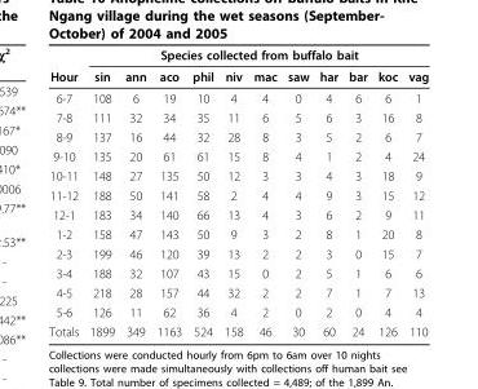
<table><thead><tr><td rowspan="2">Hour</td><td colspan="11">Species collected from buffalo bait</td></tr><tr><td>sin</td><td>ann</td><td>aco</td><td>phil</td><td>niv</td><td>mac</td><td>saw</td><td>har</td><td>bar</td><td>koc</td><td>vag</td></tr></thead><tbody><tr><td>6-7</td><td>108</td><td>6</td><td>19</td><td>10</td><td>4</td><td>4</td><td>0</td><td>4</td><td>6</td><td>6</td><td>1</td></tr><tr><td>7-8</td><td>111</td><td>32</td><td>34</td><td>35</td><td>11</td><td>6</td><td>5</td><td>6</td><td>3</td><td>16</td><td>8</td></tr><tr><td>8-9</td><td>137</td><td>16</td><td>44</td><td>32</td><td>28</td><td>8</td><td>3</td><td>5</td><td>2</td><td>6</td><td>7</td></tr><tr><td>9-10</td><td>135</td><td>20</td><td>61</td><td>61</td><td>15</td><td>8</td><td>4</td><td>1</td><td>2</td><td>4</td><td>24</td></tr><tr><td>10-11</td><td>148</td><td>27</td><td>135</td><td>50</td><td>12</td><td>3</td><td>3</td><td>4</td><td>3</td><td>18</td><td>9</td></tr><tr><td>11-12</td><td>188</td><td>50</td><td>141</td><td>58</td><td>2</td><td>4</td><td>4</td><td>9</td><td>3</td><td>15</td><td>12</td></tr><tr><td>12-1</td><td>183</td><td>34</td><td>140</td><td>66</td><td>13</td><td>4</td><td>3</td><td>6</td><td>2</td><td>9</td><td>11</td></tr><tr><td>1-2</td><td>158</td><td>47</td><td>143</td><td>50</td><td>9</td><td>3</td><td>2</td><td>8</td><td>1</td><td>20</td><td>8</td></tr><tr><td>2-3</td><td>199</td><td>46</td><td>120</td><td>39</td><td>13</td><td>2</td><td>2</td><td>3</td><td>0</td><td>15</td><td>7</td></tr><tr><td>3-4</td><td>188</td><td>32</td><td>107</td><td>43</td><td>15</td><td>0</td><td>2</td><td>5</td><td>1</td><td>6</td><td>6</td></tr><tr><td>4-5</td><td>218</td><td>28</td><td>157</td><td>44</td><td>32</td><td>2</td><td>2</td><td>7</td><td>1</td><td>7</td><td>13</td></tr><tr><td>5-6</td><td>126</td><td>11</td><td>62</td><td>36</td><td>4</td><td>2</td><td>0</td><td>2</td><td>0</td><td>4</td><td>4</td></tr><tr><td>Totals</td><td>1899</td><td>349</td><td>1163</td><td>524</td><td>158</td><td>46</td><td>30</td><td>60</td><td>24</td><td>126</td><td>110</td></tr></tbody></table>